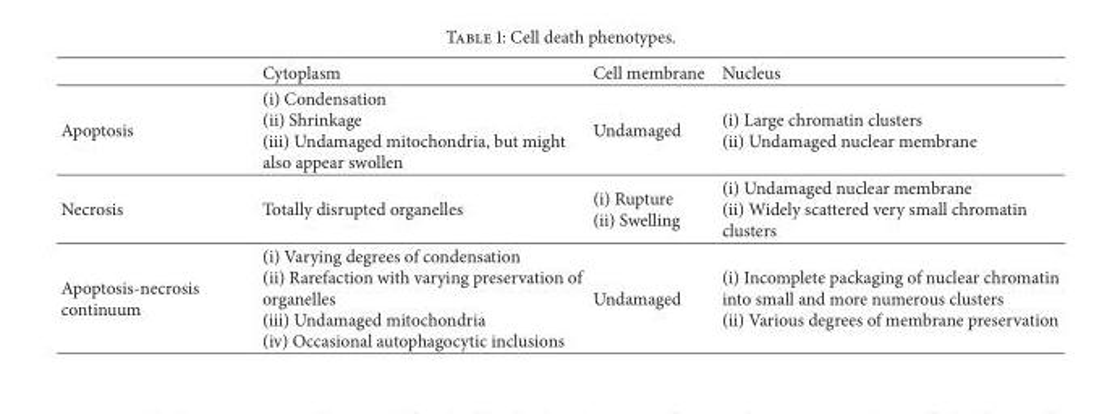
<table><thead><tr><td></td><td>Cytoplasm</td><td>Cell membrane</td><td>Nucleus</td></tr></thead><tbody><tr><td>Apoptosis</td><td>(i) Condensation (ii) Shrinkage (iii) Undamaged mitochondria, but might also appear swollen</td><td>Undamaged</td><td>(i) Large chromatin clusters (ii) Undamaged nuclear membrane</td></tr><tr><td>Necrosis</td><td>Totally disrupted organelles</td><td>(i) Rupture (ii) Swelling</td><td>(i) Undamaged nuclear membrane (ii) Widely scattered very small chromatin clusters</td></tr><tr><td>Apoptosis-necrosis continuum</td><td>(i) Varying degrees of condensation (ii) Rarefaction with varying preservation of organelles (iii) Undamaged mitochondria (iv) Occasional autophagocytic inclusions</td><td>Undamaged</td><td>(i) Incomplete packaging of nuclear chromatin into small and more numerous clusters (ii) Various degrees of membrane preservation</td></tr></tbody></table>